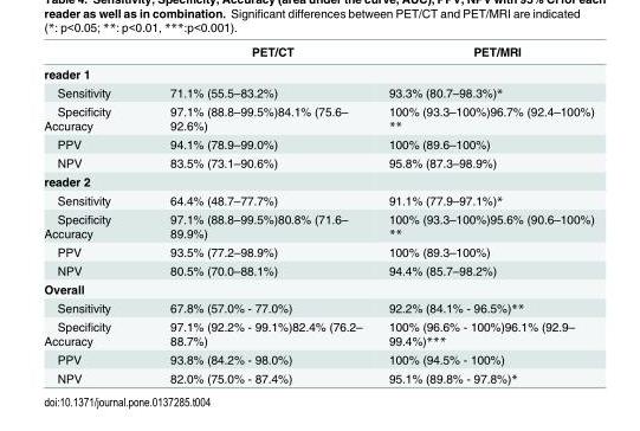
<table><thead><tr><td></td><td>PET/CT</td><td>PET/MRI</td></tr></thead><tbody><tr><td colspan="3">reader 1</td></tr><tr><td>Sensitivity</td><td>71.1% (55.5–83.2%)</td><td>93.3% (80.7–98.3%)*</td></tr><tr><td>Specificity Accuracy</td><td>97.1% (88.8–99.5%)84.1% (75.6– 92.6%)</td><td>100% (93.3–100%)96.7% (92.4–100%) **</td></tr><tr><td>PPV</td><td>94.1% (78.9–99.0%)</td><td>100% (89.6–100%)</td></tr><tr><td>NPV</td><td>83.5% (73.1–90.6%)</td><td>95.8% (87.3–98.9%)</td></tr><tr><td colspan="3">reader 2</td></tr><tr><td>Sensitivity</td><td>64.4% (48.7–77.7%)</td><td>91.1% (77.9–97.1%)*</td></tr><tr><td>Specificity Accuracy</td><td>97.1% (88.8–99.5%)80.8% (71.6– 89.9%)</td><td>100% (93.3–100%)95.6% (90.6–100%) **</td></tr><tr><td>PPV</td><td>93.5% (77.2–98.9%)</td><td>100% (89.3–100%)</td></tr><tr><td>NPV</td><td>80.5% (70.0–88.1%)</td><td>94.4% (85.7–98.2%)</td></tr><tr><td colspan="3">Overall</td></tr><tr><td>Sensitivity</td><td>67.8% (57.0% - 77.0%)</td><td>92.2% (84.1% - 96.5%)**</td></tr><tr><td>Specificity Accuracy</td><td>97.1% (92.2% - 99.1%)82.4% (76.2– 88.7%)</td><td>100% (96.6% - 100%)96.1% (92.9– 99.4%)***</td></tr><tr><td>PPV</td><td>93.8% (84.2% - 98.0%)</td><td>100% (94.5% - 100%)</td></tr><tr><td>NPV</td><td>82.0% (75.0% - 87.4%)</td><td>95.1% (89.8% - 97.8%)*</td></tr></tbody></table>